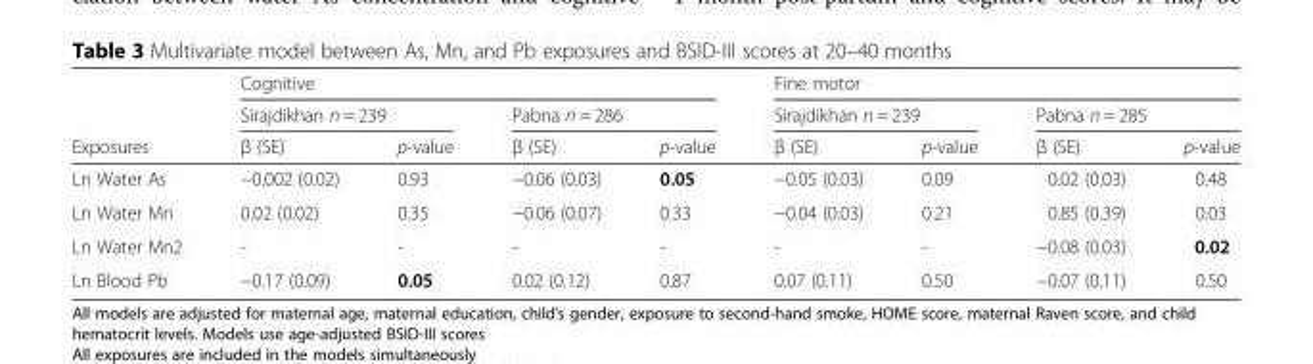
<table><thead><tr><td rowspan="3">Exposures</td><td colspan="4">Cognitive</td><td colspan="4">Fine motor</td></tr><tr><td colspan="2">Sirajdikhan n = 239</td><td colspan="2">Pabna n = 286</td><td colspan="2">Sirajdikhan n = 239</td><td colspan="2">Pabna n = 285</td></tr><tr><td>β (SE)</td><td>p-value</td><td>β (SE)</td><td>p-value</td><td>β (SE)</td><td>p-value</td><td>β (SE)</td><td>p-value</td></tr></thead><tbody><tr><td>Ln Water As</td><td>−0.002 (0.02)</td><td>0.93</td><td>−0.06 (0.03)</td><td>0.05</td><td>−0.05 (0.03)</td><td>0.09</td><td>0.02 (0.03)</td><td>0.48</td></tr><tr><td>Ln Water Mn</td><td>0.02 (0.02)</td><td>0.35</td><td>−0.06 (0.07)</td><td>0.33</td><td>−0.04 (0.03)</td><td>0.21</td><td>0.85 (0.39)</td><td>0.03</td></tr><tr><td>Ln Water Mn2</td><td>-</td><td>-</td><td>-</td><td>-</td><td>-</td><td>-</td><td>−0.08 (0.03)</td><td>0.02</td></tr><tr><td>Ln Blood Pb</td><td>−0.17 (0.09)</td><td>0.05</td><td>0.02 (0.12)</td><td>0.87</td><td>0.07 (0.11)</td><td>0.50</td><td>−0.07 (0.11)</td><td>0.50</td></tr></tbody></table>